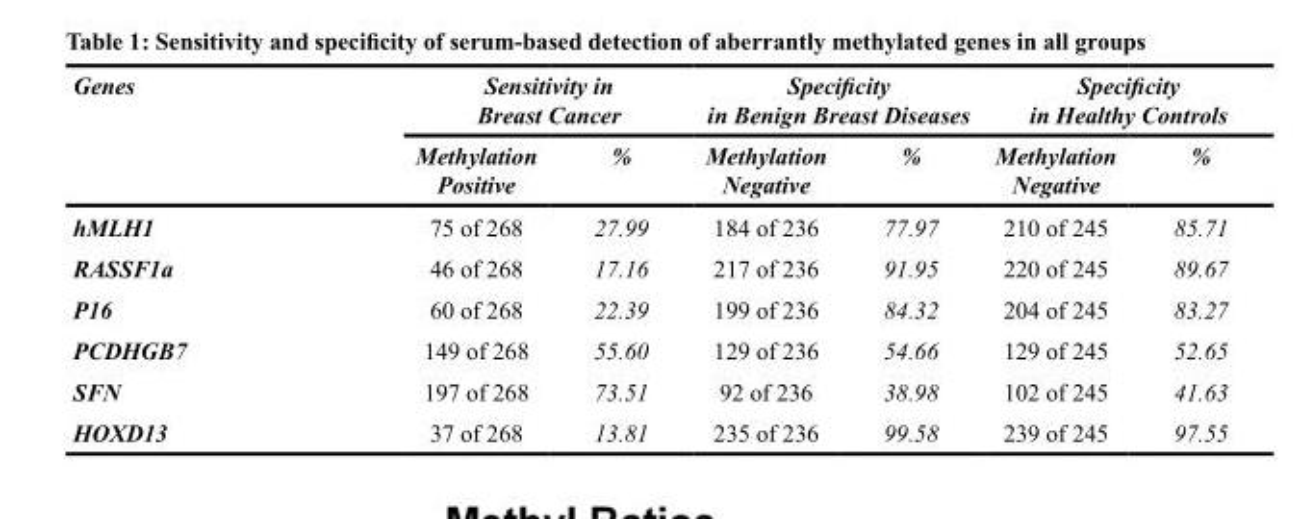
<table><thead><tr><td rowspan="2">Genes</td><td colspan="2">Sensitivity in Breast Cancer</td><td colspan="2">Specificity in Benign Breast Diseases</td><td colspan="2">Specificity in Healthy Controls</td></tr><tr><td>Methylation Positive</td><td>%</td><td>Methylation Negative</td><td>%</td><td>Methylation Negative</td><td>%</td></tr></thead><tbody><tr><td>hMLH1</td><td>75 of 268</td><td>27.99</td><td>184 of 236</td><td>77.97</td><td>210 of 245</td><td>85.71</td></tr><tr><td>RASSF1a</td><td>46 of 268</td><td>17.16</td><td>217 of 236</td><td>91.95</td><td>220 of 245</td><td>89.67</td></tr><tr><td>P16</td><td>60 of 268</td><td>22.39</td><td>199 of 236</td><td>84.32</td><td>204 of 245</td><td>83.27</td></tr><tr><td>PCDHGB7</td><td>149 of 268</td><td>55.60</td><td>129 of 236</td><td>54.66</td><td>129 of 245</td><td>52.65</td></tr><tr><td>SFN</td><td>197 of 268</td><td>73.51</td><td>92 of 236</td><td>38.98</td><td>102 of 245</td><td>41.63</td></tr><tr><td>HOXD13</td><td>37 of 268</td><td>13.81</td><td>235 of 236</td><td>99.58</td><td>239 of 245</td><td>97.55</td></tr></tbody></table>